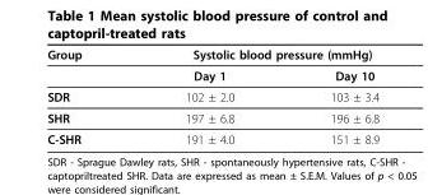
<table><thead><tr><td rowspan="2">Group</td><td colspan="2">Systolic blood pressure (mmHg)</td></tr><tr><td>Day 1</td><td>Day 10</td></tr></thead><tbody><tr><td>SDR</td><td>102 ± 2.0</td><td>103 ± 3.4</td></tr><tr><td>SHR</td><td>197 ± 6.8</td><td>196 ± 6.8</td></tr><tr><td>C-SHR</td><td>191 ± 4.0</td><td>151 ± 8.9</td></tr></tbody></table>